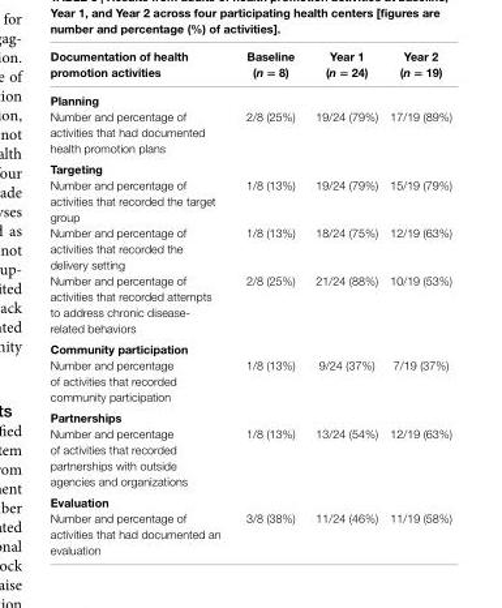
<table><thead><tr><td>Documentation of health promotion activities</td><td>Baseline (n = 8)</td><td>Year 1 (n = 24)</td><td>Year 2 (n = 19)</td></tr></thead><tbody><tr><td colspan="4">Planning</td></tr><tr><td>Number and percentage of activities that had documented health promotion plans</td><td>2/8 (25%)</td><td>19/24 (79%)</td><td>17/19 (89%)</td></tr><tr><td colspan="4">Targeting</td></tr><tr><td>Number and percentage of activities that recorded the target group</td><td>1/8 (13%)</td><td>19/24 (79%)</td><td>15/19 (79%)</td></tr><tr><td>Number and percentage of activities that recorded the delivery setting</td><td>1/8 (13%)</td><td>18/24 (75%)</td><td>12/19 (63%)</td></tr><tr><td>Number and percentage of activities that recorded attempts to address chronic disease- related behaviors</td><td>2/8 (25%)</td><td>21/24 (88%)</td><td>10/19 (53%)</td></tr><tr><td colspan="4">community participation</td></tr><tr><td>Number and percentage of activities that recorded community participation</td><td>1/8 (13%)</td><td>9/24 (37%)</td><td>7/19 (37%)</td></tr><tr><td colspan="4">Partnerships</td></tr><tr><td>Number and percentage of activities that recorded partnerships with outside agencies and organizations</td><td>1/8 (13%)</td><td>13/24 (54%)</td><td>12/19 (63%)</td></tr><tr><td colspan="4">evaluation</td></tr><tr><td>Number and percentage of activities that had documented an evaluation</td><td>3/8 (38%)</td><td>11/24 (46%)</td><td>11/19 (58%)</td></tr></tbody></table>